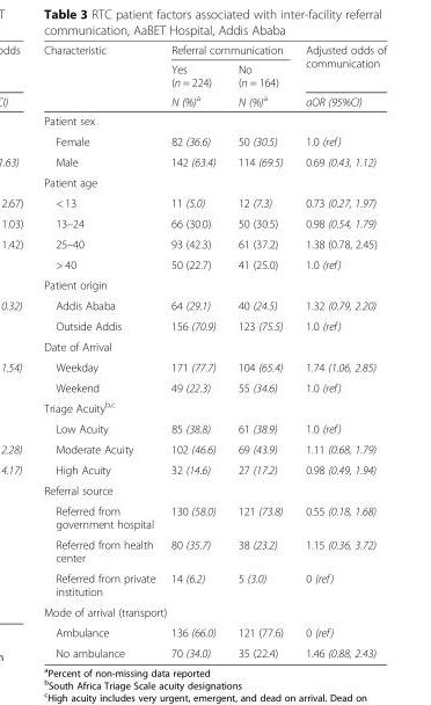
<table><thead><tr><td rowspan="3">Characteristic</td><td colspan="2">Referral communication</td><td rowspan="3">Adjusted odds of communication aOR (95%CI)</td></tr><tr><td rowspan="2">Yes (n = 224) N (%)<sup>a</sup></td><td rowspan="2">No (n = 164) N (%)<sup>a</sup></td></tr><tr></tr></thead><tbody><tr><td colspan="4">Patient sex</td></tr><tr><td>Female</td><td>82 (36.6)</td><td>50 (30.5)</td><td>1.0 (ref)</td></tr><tr><td>Male</td><td>142 (63.4)</td><td>114 (69.5)</td><td>0.69 (0.43, 1.12)</td></tr><tr><td colspan="4">Patient age</td></tr><tr><td>&lt; 13</td><td>11 (5.0)</td><td>12 (7.3)</td><td>0.73 (0.27, 1.97)</td></tr><tr><td>13–24</td><td>66 (30.0)</td><td>50 (30.5)</td><td>0.98 (0.54, 1.79)</td></tr><tr><td>25–40</td><td>93 (42.3)</td><td>61 (37.2)</td><td>1.38 (0.78, 2.45)</td></tr><tr><td>&gt; 40</td><td>50 (22.7)</td><td>41 (25.0)</td><td>1.0 (ref)</td></tr><tr><td colspan="4">Patient origin</td></tr><tr><td>Addis Ababa</td><td>64 (29.1)</td><td>40 (24.5)</td><td>1.32 (0.79, 2.20)</td></tr><tr><td>Outside Addis</td><td>156 (70.9)</td><td>123 (75.5)</td><td>1.0 (ref)</td></tr><tr><td colspan="4">Date of Arrival</td></tr><tr><td>Weekday</td><td>171 (77.7)</td><td>104 (65.4)</td><td>1.74 (1.06, 2.85)</td></tr><tr><td>Weekend</td><td>49 (22.3)</td><td>55 (34.6)</td><td>1.0 (ref)</td></tr><tr><td colspan="4">Triage Acuity<sup>b,c</sup></td></tr><tr><td>Low Acuity</td><td>85 (38.8)</td><td>61 (38.9)</td><td>1.0 (ref)</td></tr><tr><td>Moderate Acuity</td><td>102 (46.6)</td><td>69 (43.9)</td><td>1.11 (0.68, 1.79)</td></tr><tr><td>High Acuity</td><td>32 (14.6)</td><td>27 (17.2)</td><td>0.98 (0.49, 1.94)</td></tr><tr><td colspan="4">Referral source</td></tr><tr><td>Referred from government hospital</td><td>130 (58.0)</td><td>121 (73.8)</td><td>0.55 (0.18, 1.68)</td></tr><tr><td>Referred from health center</td><td>80 (35.7)</td><td>38 (23.2)</td><td>1.15 (0.36, 3.72)</td></tr><tr><td>Referred from private institution</td><td>14 (6.2)</td><td>5 (3.0)</td><td>0 (ref)</td></tr><tr><td colspan="4">Mode of arrival (transport)</td></tr><tr><td>Ambulance</td><td>136 (66.0)</td><td>121 (77.6)</td><td>0 (ref)</td></tr><tr><td>No ambulance</td><td>70 (34.0)</td><td>35 (22.4)</td><td>1.46 (0.88, 2.43)</td></tr></tbody></table>